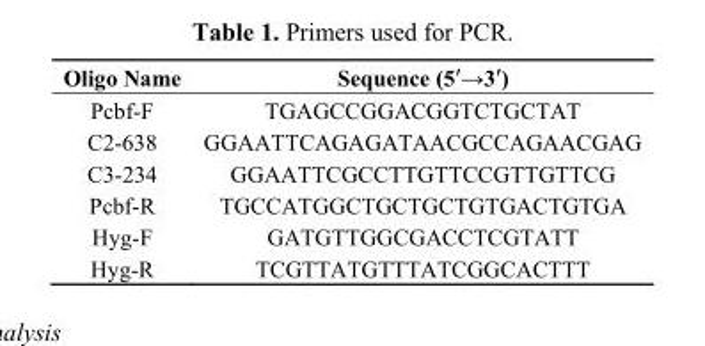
<table><thead><tr><td>Oligo Name</td><td>Sequence (5′→3′)</td></tr></thead><tbody><tr><td>Pcbf-F</td><td>TGAGCCGGACGGTCTGCTAT</td></tr><tr><td>C2-638</td><td>GGAATTCAGAGATAACGCCAGAACGAG</td></tr><tr><td>C3-234</td><td>GGAATTCGCCTTGTTCCGTTGTTCG</td></tr><tr><td>Pcbf-R</td><td>TGCCATGGCTGCTGCTGTGACTGTGA</td></tr><tr><td>Hyg-F</td><td>GATGTTGGCGACCTCGTATT</td></tr><tr><td>Hyg-R</td><td>TCGTTATGTTTATCGGCACTTT</td></tr></tbody></table>